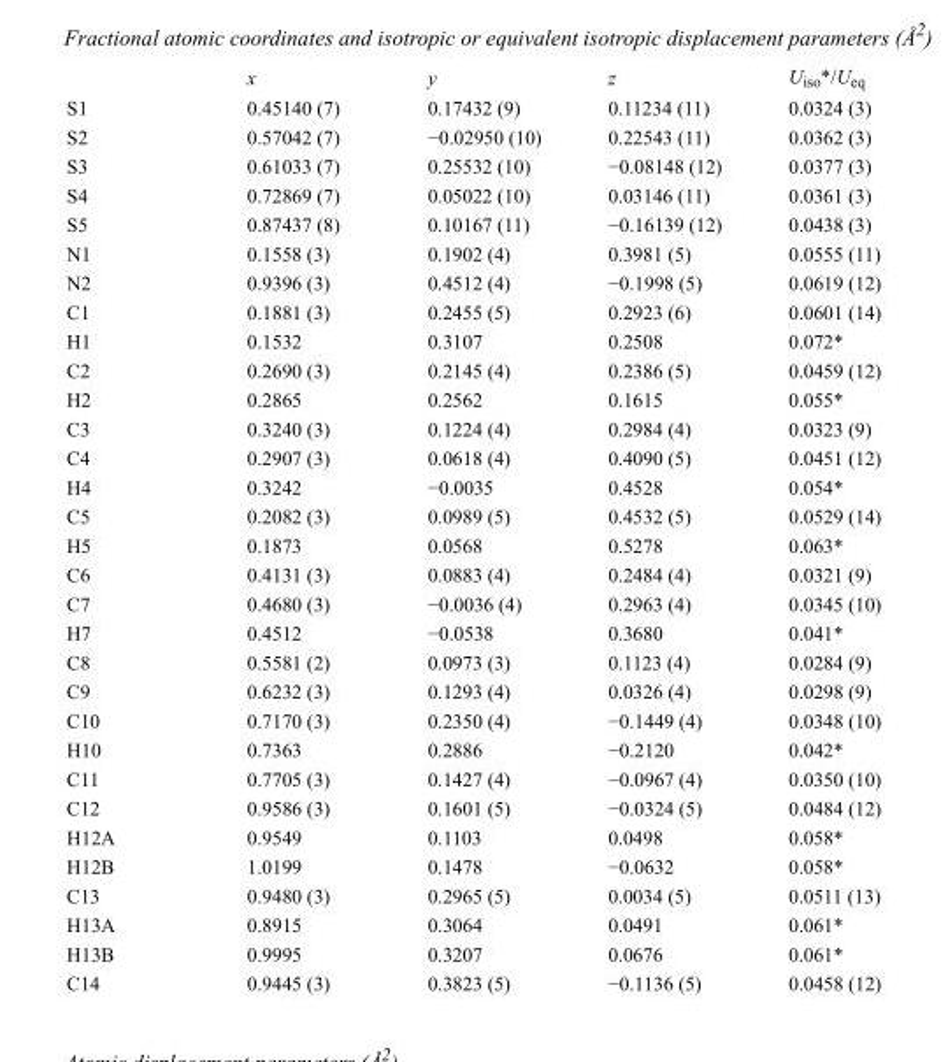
<table><thead><tr><td></td><td>x</td><td>y</td><td>z</td><td>U<sub>iso</sub>*/U<sub>eq</sub></td></tr></thead><tbody><tr><td>S1</td><td>0.45140 (7)</td><td>0.17432 (9)</td><td>0.11234 (11)</td><td>0.0324 (3)</td></tr><tr><td>S2</td><td>0.57042 (7)</td><td>−0.02950 (10)</td><td>0.22543 (11)</td><td>0.0362 (3)</td></tr><tr><td>S3</td><td>0.61033 (7)</td><td>0.25532 (10)</td><td>−0.08148 (12)</td><td>0.0377 (3)</td></tr><tr><td>S4</td><td>0.72869 (7)</td><td>0.05022 (10)</td><td>0.03146 (11)</td><td>0.0361 (3)</td></tr><tr><td>S5</td><td>0.87437 (8)</td><td>0.10167 (11)</td><td>−0.16139 (12)</td><td>0.0438 (3)</td></tr><tr><td>N1</td><td>0.1558 (3)</td><td>0.1902 (4)</td><td>0.3981 (5)</td><td>0.0555 (11)</td></tr><tr><td>N2</td><td>0.9396 (3)</td><td>0.4512 (4)</td><td>−0.1998 (5)</td><td>0.0619 (12)</td></tr><tr><td>C1</td><td>0.1881 (3)</td><td>0.2455 (5)</td><td>0.2923 (6)</td><td>0.0601 (14)</td></tr><tr><td>H1</td><td>0.1532</td><td>0.3107</td><td>0.2508</td><td>0.072*</td></tr><tr><td>C2</td><td>0.2690 (3)</td><td>0.2145 (4)</td><td>0.2386 (5)</td><td>0.0459 (12)</td></tr><tr><td>H2</td><td>0.2865</td><td>0.2562</td><td>0.1615</td><td>0.055*</td></tr><tr><td>C3</td><td>0.3240 (3)</td><td>0.1224 (4)</td><td>0.2984 (4)</td><td>0.0323 (9)</td></tr><tr><td>C4</td><td>0.2907 (3)</td><td>0.0618 (4)</td><td>0.4090 (5)</td><td>0.0451 (12)</td></tr><tr><td>H4</td><td>0.3242</td><td>−0.0035</td><td>0.4528</td><td>0.054*</td></tr><tr><td>C5</td><td>0.2082 (3)</td><td>0.0989 (5)</td><td>0.4532 (5)</td><td>0.0529 (14)</td></tr><tr><td>H5</td><td>0.1873</td><td>0.0568</td><td>0.5278</td><td>0.063*</td></tr><tr><td>C6</td><td>0.4131 (3)</td><td>0.0883 (4)</td><td>0.2484 (4)</td><td>0.0321 (9)</td></tr><tr><td>C7</td><td>0.4680 (3)</td><td>−0.0036 (4)</td><td>0.2963 (4)</td><td>0.0345 (10)</td></tr><tr><td>H7</td><td>0.4512</td><td>−0.0538</td><td>0.3680</td><td>0.041*</td></tr><tr><td>C8</td><td>0.5581 (2)</td><td>0.0973 (3)</td><td>0.1123 (4)</td><td>0.0284 (9)</td></tr><tr><td>C9</td><td>0.6232 (3)</td><td>0.1293 (4)</td><td>0.0326 (4)</td><td>0.0298 (9)</td></tr><tr><td>C10</td><td>0.7170 (3)</td><td>0.2350 (4)</td><td>−0.1449 (4)</td><td>0.0348 (10)</td></tr><tr><td>H10</td><td>0.7363</td><td>0.2886</td><td>−0.2120</td><td>0.042*</td></tr><tr><td>C11</td><td>0.7705 (3)</td><td>0.1427 (4)</td><td>−0.0967 (4)</td><td>0.0350 (10)</td></tr><tr><td>C12</td><td>0.9586 (3)</td><td>0.1601 (5)</td><td>−0.0324 (5)</td><td>0.0484 (12)</td></tr><tr><td>H12A</td><td>0.9549</td><td>0.1103</td><td>0.0498</td><td>0.058*</td></tr><tr><td>H12B</td><td>1.0199</td><td>0.1478</td><td>−0.0632</td><td>0.058*</td></tr><tr><td>C13</td><td>0.9480 (3)</td><td>0.2965 (5)</td><td>0.0034 (5)</td><td>0.0511 (13)</td></tr><tr><td>H13A</td><td>0.8915</td><td>0.3064</td><td>0.0491</td><td>0.061*</td></tr><tr><td>H13B</td><td>0.9995</td><td>0.3207</td><td>0.0676</td><td>0.061*</td></tr><tr><td>C14</td><td>0.9445 (3)</td><td>0.3823 (5)</td><td>−0.1136 (5)</td><td>0.0458 (12)</td></tr></tbody></table>